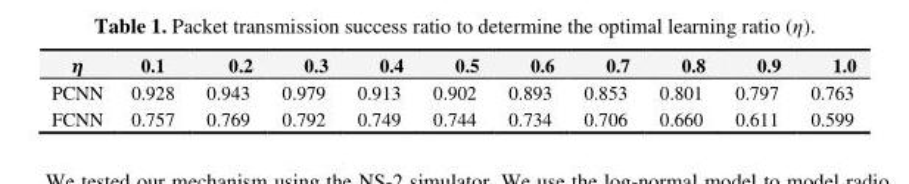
<table><thead><tr><td>𝜼</td><td>0.1</td><td>0.2</td><td>0.3</td><td>0.4</td><td>0.5</td><td>0.6</td><td>0.7</td><td>0.8</td><td>0.9</td><td>1.0</td></tr></thead><tbody><tr><td>PCNN</td><td>0.928</td><td>0.943</td><td>0.979</td><td>0.913</td><td>0.902</td><td>0.893</td><td>0.853</td><td>0.801</td><td>0.797</td><td>0.763</td></tr><tr><td>FCNN</td><td>0.757</td><td>0.769</td><td>0.792</td><td>0.749</td><td>0.744</td><td>0.734</td><td>0.706</td><td>0.660</td><td>0.611</td><td>0.599</td></tr></tbody></table>